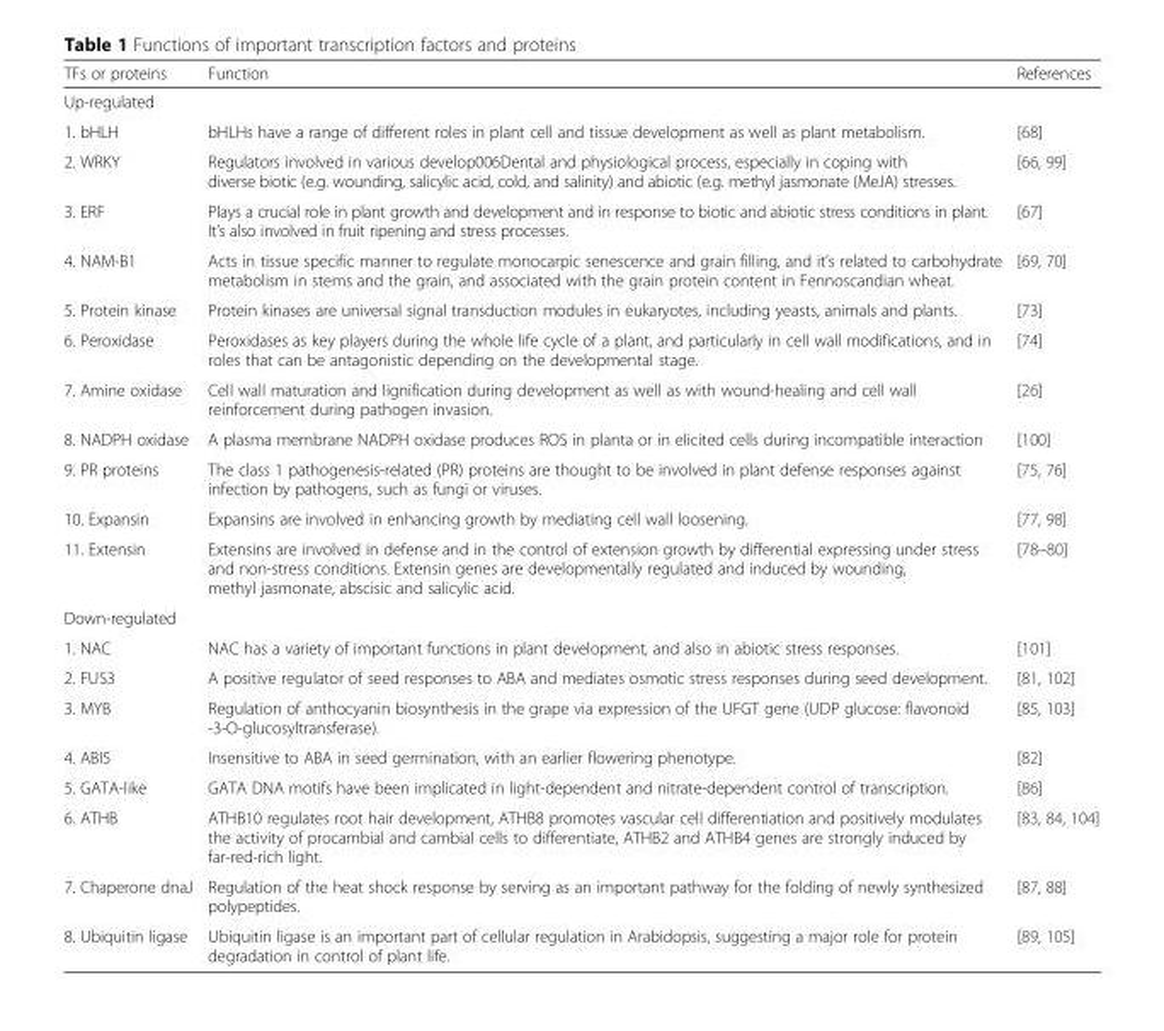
<table><thead><tr><td>TFs or proteins</td><td>Function</td><td>References</td></tr></thead><tbody><tr><td colspan="3">Up-regulated</td></tr><tr><td>1. bHLH</td><td>bHLHs have a range of different roles in plant cell and tissue development as well as plant metabolism.</td><td>[68]</td></tr><tr><td>2. WRKY</td><td>Regulators involved in various develop006Dental and physiological process, especially in coping with diverse biotic (e.g. wounding, salicylic acid, cold, and salinity) and abiotic (e.g. methyl jasmonate (MeJA) stresses.</td><td>[66, 99]</td></tr><tr><td>3. ERF</td><td>Plays a crucial role in plant growth and development and in response to biotic and abiotic stress conditions in plant. It’s also involved in fruit ripening and stress processes.</td><td>[67]</td></tr><tr><td>4. NAM-B1</td><td>Acts in tissue specific manner to regulate monocarpic senescence and grain filling, and it’s related to carbohydrate metabolism in stems and the grain, and associated with the grain protein content in Fennoscandian wheat.</td><td>[69, 70]</td></tr><tr><td>5. Protein kinase</td><td>Protein kinases are universal signal transduction modules in eukaryotes, including yeasts, animals and plants.</td><td>[73]</td></tr><tr><td>6. Peroxidase</td><td>Peroxidases as key players during the whole life cycle of a plant, and particularly in cell wall modifications, and in roles that can be antagonistic depending on the developmental stage.</td><td>[74]</td></tr><tr><td>7. Amine oxidase</td><td>Cell wall maturation and lignification during development as well as with wound-healing and cell wall reinforcement during pathogen invasion.</td><td>[26]</td></tr><tr><td>8. NADPH oxidase</td><td>A plasma membrane NADPH oxidase produces ROS in planta or in elicited cells during incompatible interaction</td><td>[100]</td></tr><tr><td>9. PR proteins</td><td>The class 1 pathogenesis-related (PR) proteins are thought to be involved in plant defense responses against infection by pathogens, such as fungi or viruses.</td><td>[75, 76]</td></tr><tr><td>10. Expansin</td><td>Expansins are involved in enhancing growth by mediating cell wall loosening.</td><td>[77, 98]</td></tr><tr><td>11. Extensin</td><td>Extensins are involved in defense and in the control of extension growth by differential expressing under stress and non-stress conditions. Extensin genes are developmentally regulated and induced by wounding, methyl jasmonate, abscisic and salicylic acid.</td><td>[78–80]</td></tr><tr><td colspan="3">Down-regulated</td></tr><tr><td>1. NAC</td><td>NAC has a variety of important functions in plant development, and also in abiotic stress responses.</td><td>[101]</td></tr><tr><td>2. FUS3</td><td>A positive regulator of seed responses to ABA and mediates osmotic stress responses during seed development.</td><td>[81, 102]</td></tr><tr><td>3. MYB</td><td>Regulation of anthocyanin biosynthesis in the grape via expression of the UFGT gene (UDP glucose: flavonoid -3-O-glucosyltransferase).</td><td>[85, 103]</td></tr><tr><td>4. ABI5</td><td>Insensitive to ABA in seed germination, with an earlier flowering phenotype.</td><td>[82]</td></tr><tr><td>5. GATA-like</td><td>GATA DNA motifs have been implicated in light-dependent and nitrate-dependent control of transcription.</td><td>[86]</td></tr><tr><td>6. ATHB</td><td>ATHB10 regulates root hair development, ATHB8 promotes vascular cell differentiation and positively modulates the activity of procambial and cambial cells to differentiate, ATHB2 and ATHB4 genes are strongly induced by far-red-rich light.</td><td>[83, 84, 104]</td></tr><tr><td>7. Chaperone dnaJ</td><td>Regulation of the heat shock response by serving as an important pathway for the folding of newly synthesized polypeptides.</td><td>[87, 88]</td></tr><tr><td>8. Ubiquitin ligase</td><td>Ubiquitin ligase is an important part of cellular regulation in Arabidopsis, suggesting a major role for protein degradation in control of plant life.</td><td>[89, 105]</td></tr></tbody></table>